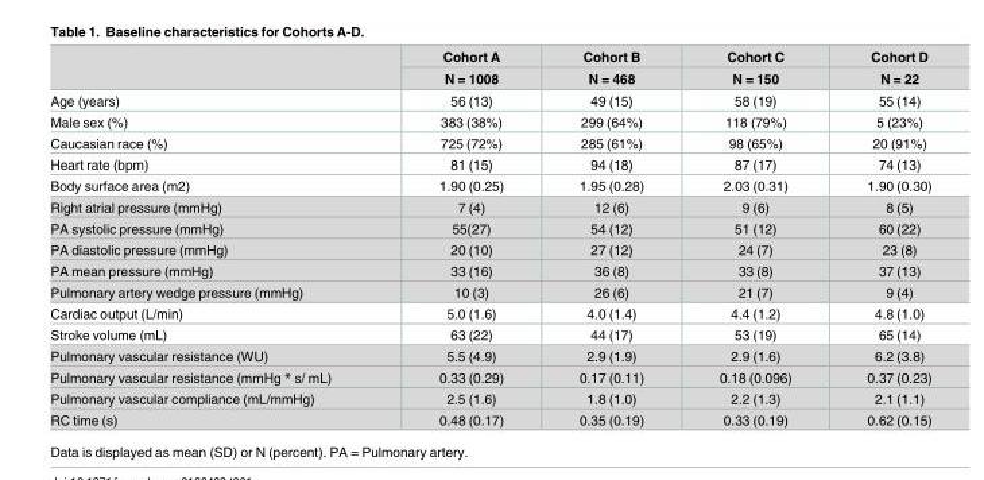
<table><thead><tr><td rowspan="2"></td><td rowspan="2">Cohort A N = 1008</td><td rowspan="2">Cohort B N = 468</td><td rowspan="2">Cohort C N = 150</td><td rowspan="2">Cohort D N = 22</td></tr><tr></tr></thead><tbody><tr><td>Age (years)</td><td>56 (13)</td><td>49 (15)</td><td>58 (19)</td><td>55 (14)</td></tr><tr><td>Male sex (%)</td><td>383 (38%)</td><td>299 (64%)</td><td>118 (79%)</td><td>5 (23%)</td></tr><tr><td>Caucasian race (%)</td><td>725 (72%)</td><td>285 (61%)</td><td>98 (65%)</td><td>20 (91%)</td></tr><tr><td>Heart rate (bpm)</td><td>81 (15)</td><td>94 (18)</td><td>87 (17)</td><td>74 (13)</td></tr><tr><td>Body surface area (m2)</td><td>1.90 (0.25)</td><td>1.95 (0.28)</td><td>2.03 (0.31)</td><td>1.90 (0.30)</td></tr><tr><td>Right atrial pressure (mmHg)</td><td>7 (4)</td><td>12 (6)</td><td>9 (6)</td><td>8 (5)</td></tr><tr><td>PA systolic pressure (mmHg)</td><td>55(27)</td><td>54 (12)</td><td>51 (12)</td><td>60 (22)</td></tr><tr><td>PA diastolic pressure (mmHg)</td><td>20 (10)</td><td>27 (12)</td><td>24 (7)</td><td>23 (8)</td></tr><tr><td>PA mean pressure (mmHg)</td><td>33 (16)</td><td>36 (8)</td><td>33 (8)</td><td>37 (13)</td></tr><tr><td>Pulmonary artery wedge pressure (mmHg)</td><td>10 (3)</td><td>26 (6)</td><td>21 (7)</td><td>9 (4)</td></tr><tr><td>Cardiac output (L/min)</td><td>5.0 (1.6)</td><td>4.0 (1.4)</td><td>4.4 (1.2)</td><td>4.8 (1.0)</td></tr><tr><td>Stroke volume (mL)</td><td>63 (22)</td><td>44 (17)</td><td>53 (19)</td><td>65 (14)</td></tr><tr><td>Pulmonary vascular resistance (WU)</td><td>5.5 (4.9)</td><td>2.9 (1.9)</td><td>2.9 (1.6)</td><td>6.2 (3.8)</td></tr><tr><td>Pulmonary vascular resistance (mmHg * s/ mL)</td><td>0.33 (0.29)</td><td>0.17 (0.11)</td><td>0.18 (0.096)</td><td>0.37 (0.23)</td></tr><tr><td>Pulmonary vascular compliance (mL/mmHg)</td><td>2.5 (1.6)</td><td>1.8 (1.0)</td><td>2.2 (1.3)</td><td>2.1 (1.1)</td></tr><tr><td>RC time (s)</td><td>0.48 (0.17)</td><td>0.35 (0.19)</td><td>0.33 (0.19)</td><td>0.62 (0.15)</td></tr></tbody></table>